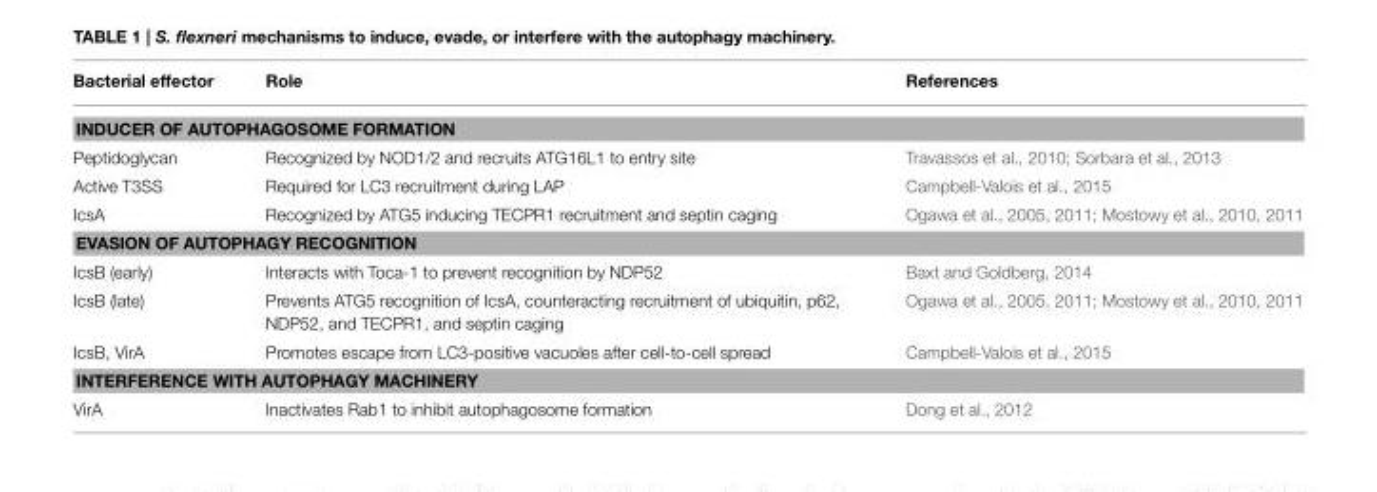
<table><thead><tr><td>Bacterial effector</td><td>Role</td><td>References</td></tr></thead><tbody><tr><td colspan="3">INDUCER OF AUTOPHAGOSOME FORMATION</td></tr><tr><td>Peptidoglycan</td><td>Recognized by NOD1/2 and recruits ATG16L1 to entry site</td><td>Travassos et al., 2010; Sorbara et al., 2013</td></tr><tr><td>Active T3SS</td><td>Required for LC3 recruitment during LAP</td><td>Campbell-Valois et al., 2015</td></tr><tr><td>IcsA</td><td>Recognized by ATG5 inducing TECPR1 recruitment and septin caging</td><td>Ogawa et al., 2005, 2011; Mostowy et al., 2010, 2011</td></tr><tr><td colspan="3">EVASION OF AUTOPHAGY RECOGNITION</td></tr><tr><td>IcsB (early)</td><td>Interacts with Toca-1 to prevent recognition by NDP52</td><td>Baxt and Goldberg, 2014</td></tr><tr><td>IcsB (late)</td><td>Prevents ATG5 recognition of IcsA, counteracting recruitment of ubiquitin, p62, NDP52, and TECPR1, and septin caging</td><td>Ogawa et al., 2005, 2011; Mostowy et al., 2010, 2011</td></tr><tr><td>IcsB, VirA</td><td>Promotes escape from LC3-positive vacuoles after cell-to-cell spread</td><td>Campbell-Valois et al., 2015</td></tr><tr><td colspan="3">INTERFERENCE WITH AUTOPHAGY MACHINERY</td></tr><tr><td>VirA</td><td>Inactivates Rab1 to inhibit autophagosome formation</td><td>Dong et al., 2012</td></tr></tbody></table>